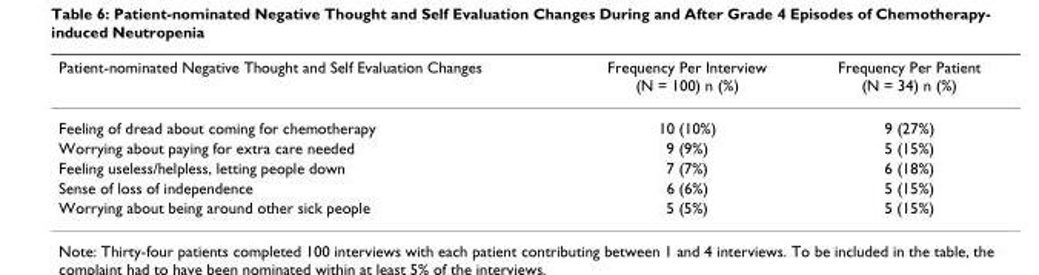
<table><thead><tr><td>Patient-nominated Negative Thought and Self Evaluation Changes</td><td>Frequency Per Interview (N = 100) n (%)</td><td>Frequency Per Patient (N = 34) n (%)</td></tr></thead><tbody><tr><td>Feeling of dread about coming for chemotherapy</td><td>10 (10%)</td><td>9 (27%)</td></tr><tr><td>Worrying about paying for extra care needed</td><td>9 (9%)</td><td>5 (15%)</td></tr><tr><td>Feeling useless/helpless, letting people down</td><td>7 (7%)</td><td>6 (18%)</td></tr><tr><td>Sense of loss of independence</td><td>6 (6%)</td><td>5 (15%)</td></tr><tr><td>Worrying about being around other sick people</td><td>5 (5%)</td><td>5 (15%)</td></tr></tbody></table>